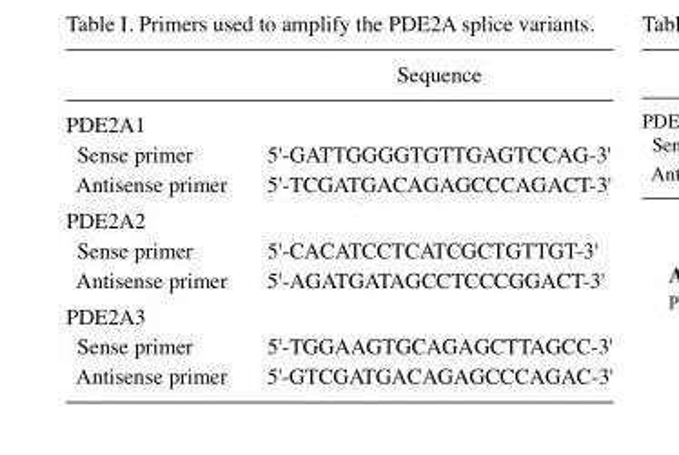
<table><thead><tr><td></td><td>Sequence</td></tr></thead><tbody><tr><td colspan="2">PDE2A1</td></tr><tr><td>Sense primer</td><td>5&#x27;-GATTGGGGTGTTGAGTCCAG-3&#x27;</td></tr><tr><td>Antisense primer</td><td>5&#x27;-TCGATGACAGAGCCCAGACT-3&#x27;</td></tr><tr><td colspan="2">PDE2A2</td></tr><tr><td>Sense primer</td><td>5&#x27;-CACATCCTCATCGCTGTTGT-3&#x27;</td></tr><tr><td>Antisense primer</td><td>5&#x27;-AGATGATAGCCTCCCGGACT-3&#x27;</td></tr><tr><td colspan="2">PDE2A3</td></tr><tr><td>Sense primer</td><td>5&#x27;-TGGAAGTGCAGAGCTTAGCC-3&#x27;</td></tr><tr><td>Antisense primer</td><td>5&#x27;-GTCGATGACAGAGCCCAGAC-3&#x27;</td></tr></tbody></table>